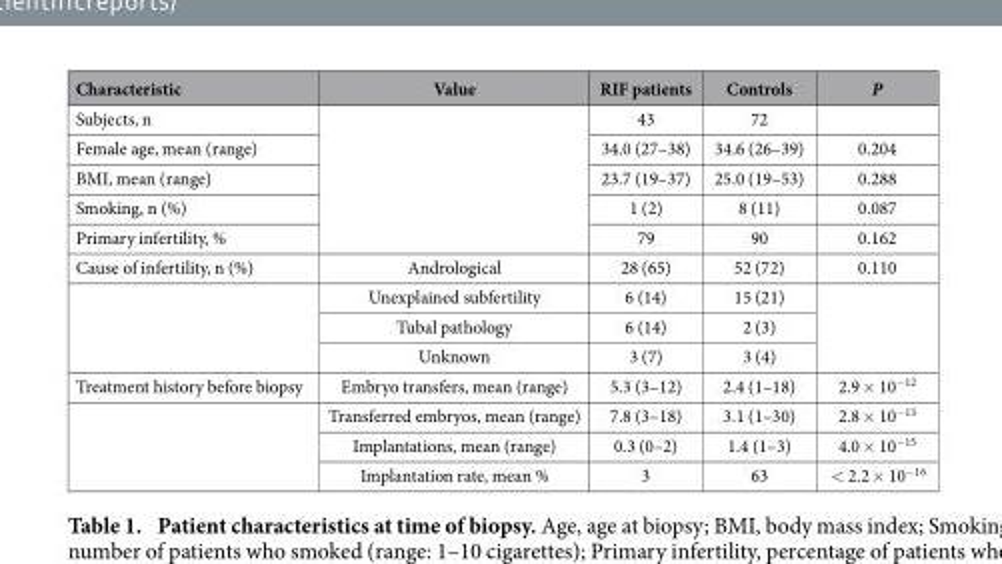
<table><thead><tr><td>Characteristic</td><td>Value</td><td>RIF patients</td><td>Controls</td><td>P</td></tr></thead><tbody><tr><td>Subjects, n</td><td rowspan="5"></td><td>43</td><td>72</td><td></td></tr><tr><td>Female age, mean (range)</td><td>34.0 (27–38)</td><td>34.6 (26–39)</td><td>0.204</td></tr><tr><td>BMI, mean (range)</td><td>23.7 (19–37)</td><td>25.0 (19–53)</td><td>0.288</td></tr><tr><td>Smoking, n (%)</td><td>1 (2)</td><td>8 (11)</td><td>0.087</td></tr><tr><td>Primary infertility, %</td><td>79</td><td>90</td><td>0.162</td></tr><tr><td rowspan="4">Cause of infertility, n (%)</td><td>Andrological</td><td>28 (65)</td><td>52 (72)</td><td>0.110</td></tr><tr><td>Unexplained subfertility</td><td>6 (14)</td><td>15 (21)</td><td rowspan="3"></td></tr><tr><td>Tubal pathology</td><td>6 (14)</td><td>2 (3)</td></tr><tr><td>Unknown</td><td>3 (7)</td><td>3 (4)</td></tr><tr><td rowspan="4">Treatment history before biopsy</td><td>Embryo transfers, mean (range)</td><td>5.3 (3–12)</td><td>2.4 (1–18)</td><td>2.9 × 10<sup>−12</sup></td></tr><tr><td>Transferred embryos, mean (range)</td><td>7.8 (3–18)</td><td>3.1 (1–30)</td><td>2.8 × 10<sup>−13</sup></td></tr><tr><td>Implantations, mean (range)</td><td>0.3 (0–2)</td><td>1.4 (1–3)</td><td>4.0 × 10<sup>−15</sup></td></tr><tr><td>Implantation rate, mean %</td><td>3</td><td>63</td><td>&lt; 2.2 × 10<sup>−16</sup></td></tr></tbody></table>